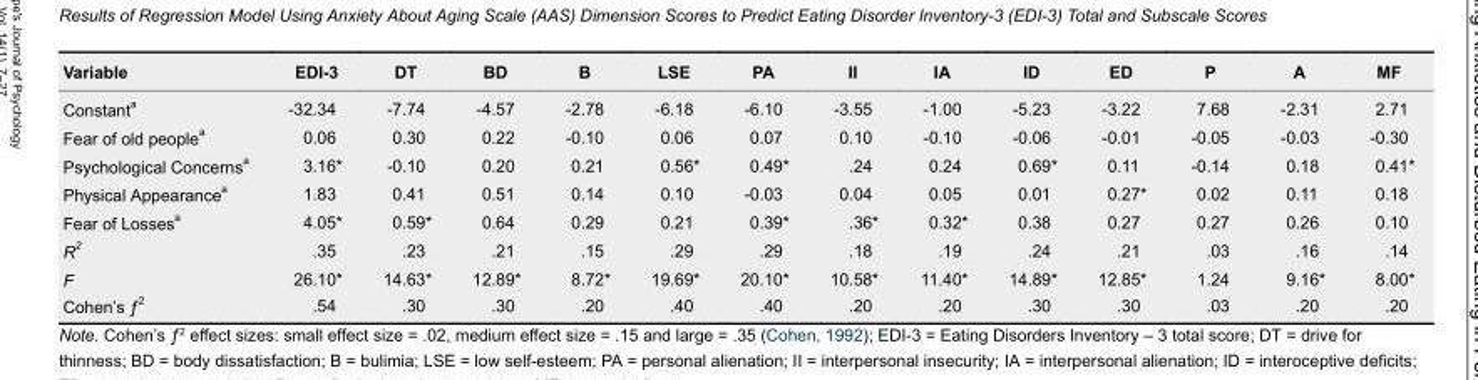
<table><thead><tr><td>Variable</td><td>EDI-3</td><td>DT</td><td>BD</td><td>B</td><td>LSE</td><td>PA</td><td>II</td><td>IA</td><td>ID</td><td>ED</td><td>P</td><td>A</td><td>MF</td></tr></thead><tbody><tr><td>Constant <sup>a</sup></td><td>-32.34</td><td>-7.74</td><td>-4.57</td><td>-2.78</td><td>-6.18</td><td>-6.10</td><td>-3.55</td><td>-1.00</td><td>-5.23</td><td>-3.22</td><td>7.68</td><td>-2.31</td><td>2.71</td></tr><tr><td>Fear of old people <sup>a</sup></td><td>0.06</td><td>0.30</td><td>0.22</td><td>-0.10</td><td>0.06</td><td>0.07</td><td>0.10</td><td>-0.10</td><td>-0.06</td><td>-0.01</td><td>-0.05</td><td>-0.03</td><td>-0.30</td></tr><tr><td>Psychological Concerns <sup>a</sup></td><td>3.16*</td><td>-0.10</td><td>0.20</td><td>0.21</td><td>0.56*</td><td>0.49*</td><td>.24</td><td>0.24</td><td>0.69*</td><td>0.11</td><td>-0.14</td><td>0.18</td><td>0.41*</td></tr><tr><td>Physical Appearance <sup>a</sup></td><td>1.83</td><td>0.41</td><td>0.51</td><td>0.14</td><td>0.10</td><td>-0.03</td><td>0.04</td><td>0.05</td><td>0.01</td><td>0.27*</td><td>0.02</td><td>0.11</td><td>0.18</td></tr><tr><td>Fear of Losses <sup>a</sup></td><td>4.05*</td><td>0.59*</td><td>0.64</td><td>0.29</td><td>0.21</td><td>0.39*</td><td>.36*</td><td>0.32*</td><td>0.38</td><td>0.27</td><td>0.27</td><td>0.26</td><td>0.10</td></tr><tr><td>R <sup>2</sup></td><td>.35</td><td>.23</td><td>.21</td><td>.15</td><td>.29</td><td>.29</td><td>.18</td><td>.19</td><td>.24</td><td>.21</td><td>.03</td><td>.16</td><td>.14</td></tr><tr><td>F</td><td>26.10*</td><td>14.63*</td><td>12.89*</td><td>8.72*</td><td>19.69*</td><td>20.10*</td><td>10.58*</td><td>11.40*</td><td>14.89*</td><td>12.85*</td><td>1.24</td><td>9.16*</td><td>8.00*</td></tr><tr><td>Cohen’s ƒ <sup>2</sup></td><td>.54</td><td>.30</td><td>.30</td><td>.20</td><td>.40</td><td>.40</td><td>.20</td><td>.20</td><td>.30</td><td>.30</td><td>.03</td><td>.20</td><td>.20</td></tr></tbody></table>